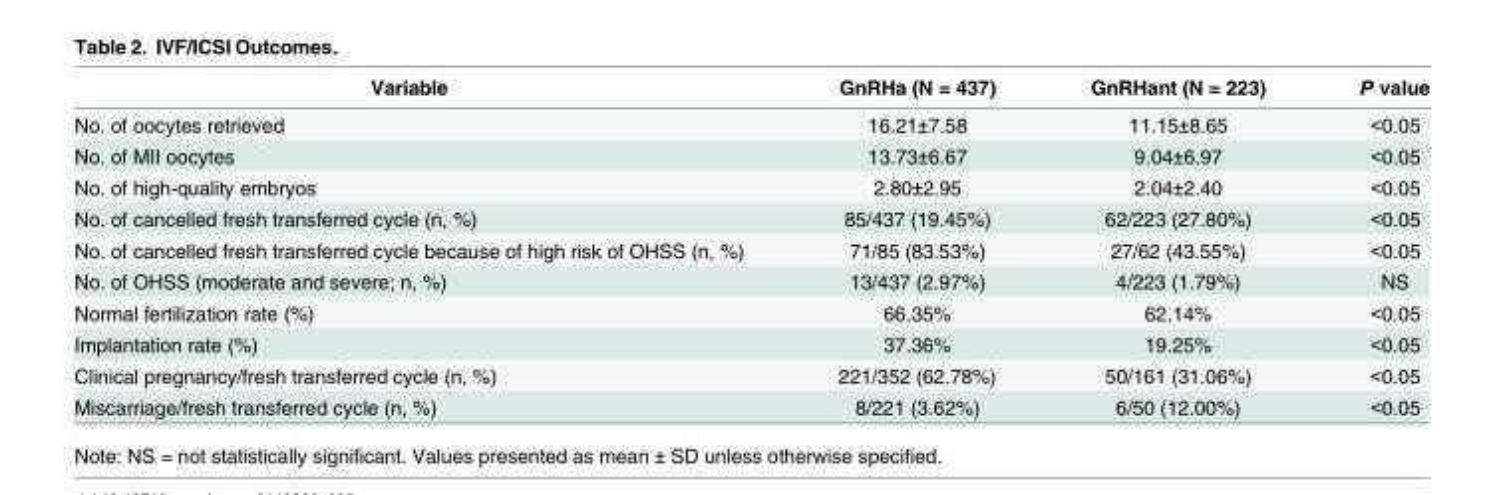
<table><thead><tr><td>Variable</td><td>GnRHa (N = 437)</td><td>GnRHant (N = 223)</td><td>P value</td></tr></thead><tbody><tr><td>No. of oocytes retrieved</td><td>16.21±7.58</td><td>11.15±8.65</td><td>&lt;0.05</td></tr><tr><td>No. of MII oocytes</td><td>13.73±6.67</td><td>9.04±6.97</td><td>&lt;0.05</td></tr><tr><td>No. of high-quality embryos</td><td>2.80±2.95</td><td>2.04±2.40</td><td>&lt;0.05</td></tr><tr><td>No. of cancelled fresh transferred cycle (n, %)</td><td>85/437 (19.45%)</td><td>62/223 (27.80%)</td><td>&lt;0.05</td></tr><tr><td>No. of cancelled fresh transferred cycle because of high risk of OHSS (n, %)</td><td>71/85 (83.53%)</td><td>27/62 (43.55%)</td><td>&lt;0.05</td></tr><tr><td>No. of OHSS (moderate and severe; n, %)</td><td>13/437 (2.97%)</td><td>4/223 (1.79%)</td><td>NS</td></tr><tr><td>Normal fertilization rate (%)</td><td>66.35%</td><td>62.14%</td><td>&lt;0.05</td></tr><tr><td>Implantation rate (%)</td><td>37.36%</td><td>19.25%</td><td>&lt;0.05</td></tr><tr><td>Clinical pregnancy/fresh transferred cycle (n, %)</td><td>221/352 (62.78%)</td><td>50/161 (31.06%)</td><td>&lt;0.05</td></tr><tr><td>Miscarriage/fresh transferred cycle (n, %)</td><td>8/221 (3.62%)</td><td>6/50 (12.00%)</td><td>&lt;0.05</td></tr></tbody></table>